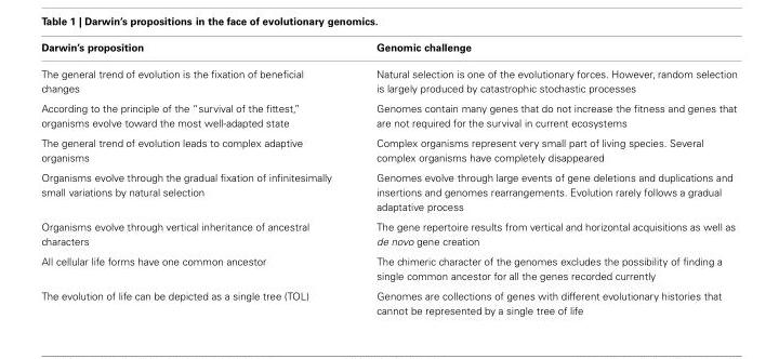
<table><thead><tr><td>Darwin’s proposition</td><td>Genomic challenge</td></tr></thead><tbody><tr><td>The general trend of evolution is the fixation of beneficial changes</td><td>Natural selection is one of the evolutionary forces. However, random selection is largely produced by catastrophic stochastic processes</td></tr><tr><td>According to the principle of the “survival of the fittest,” organisms evolve toward the most well-adapted state</td><td>Genomes contain many genes that do not increase the fitness and genes that are not required for the survival in current ecosystems</td></tr><tr><td>The general trend of evolution leads to complex adaptive organisms</td><td>Complex organisms represent very small part of living species. Several complex organisms have completely disappeared</td></tr><tr><td>Organisms evolve through the gradual fixation of infinitesimally small variations by natural selection</td><td>Genomes evolve through large events of gene deletions and duplications and insertions and genomes rearrangements. Evolution rarely follows a gradual adaptative process</td></tr><tr><td>Organisms evolve through vertical inheritance of ancestral characters</td><td>The gene repertoire results from vertical and horizontal acquisitions as well as de novo gene creation</td></tr><tr><td>All cellular life forms have one common ancestor</td><td>The chimeric character of the genomes excludes the possibility of finding a single common ancestor for all the genes recorded currently</td></tr><tr><td>The evolution of life can be depicted as a single tree (TOL)</td><td>Genomes are collections of genes with different evolutionary histories that cannot be represented by a single tree of life</td></tr></tbody></table>